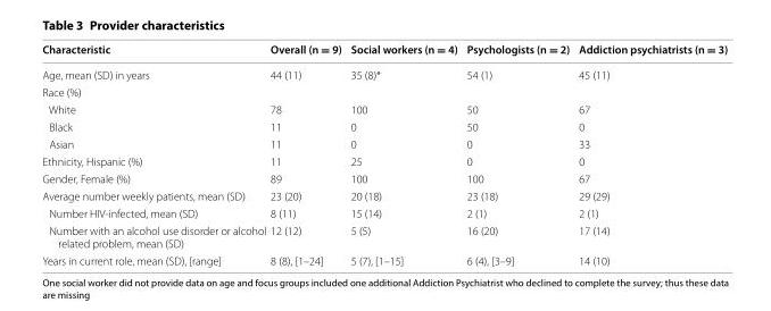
<table><thead><tr><td>Characteristic</td><td>Overall (n = 9)</td><td>Social workers (n = 4)</td><td>Psychologists (n = 2)</td><td>Addiction psychiatrists (n = 3)</td></tr></thead><tbody><tr><td>Age, mean (SD) in years</td><td>44 (11)</td><td>35 (8)*</td><td>54 (1)</td><td>45 (11)</td></tr><tr><td colspan="5">Race (%)</td></tr><tr><td>White</td><td>78</td><td>100</td><td>50</td><td>67</td></tr><tr><td>Black</td><td>11</td><td>0</td><td>50</td><td>0</td></tr><tr><td>Asian</td><td>11</td><td>0</td><td>0</td><td>33</td></tr><tr><td>Ethnicity, Hispanic (%)</td><td>11</td><td>25</td><td>0</td><td>0</td></tr><tr><td>Gender, Female (%)</td><td>89</td><td>100</td><td>100</td><td>67</td></tr><tr><td>Average number weekly patients, mean (SD)</td><td>23 (20)</td><td>20 (18)</td><td>23 (18)</td><td>29 (29)</td></tr><tr><td>Number HIV-infected, mean (SD)</td><td>8 (11)</td><td>15 (14)</td><td>2 (1)</td><td>2 (1)</td></tr><tr><td>Number with an alcohol use disorder or alcohol related problem, mean (SD)</td><td>12 (12)</td><td>5 (5)</td><td>16 (20)</td><td>17 (14)</td></tr><tr><td>Years in current role, mean (SD), [range]</td><td>8 (8), [1–24]</td><td>5 (7), [1–15]</td><td>6 (4), [3–9]</td><td>14 (10)</td></tr></tbody></table>